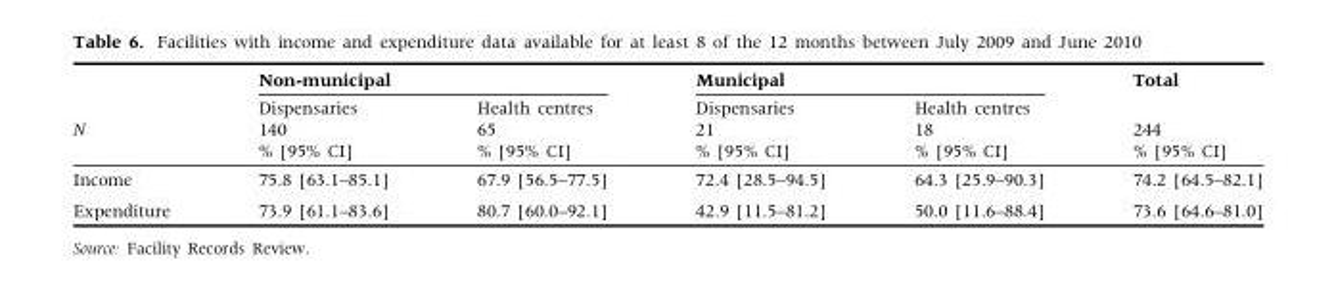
<table><thead><tr><td rowspan="4">N</td><td colspan="2">Non-municipal</td><td colspan="2">Municipal</td><td rowspan="4">Total 244 % [95% CI]</td></tr><tr><td rowspan="3">Dispensaries 140 % [95% CI]</td><td rowspan="3">Health centres 65 % [95% CI]</td><td rowspan="3">Dispensaries 21 % [95% CI]</td><td rowspan="3">Health centres 18 % [95% CI]</td></tr><tr></tr><tr></tr></thead><tbody><tr><td>Income</td><td>75.8 [63.1–85.1]</td><td>67.9 [56.5–77.5]</td><td>72.4 [28.5–94.5]</td><td>64.3 [25.9–90.3]</td><td>74.2 [64.5–82.1]</td></tr><tr><td>Expenditure</td><td>73.9 [61.1–83.6]</td><td>80.7 [60.0–92.1]</td><td>42.9 [11.5–81.2]</td><td>50.0 [11.6–88.4]</td><td>73.6 [64.6–81.0]</td></tr></tbody></table>